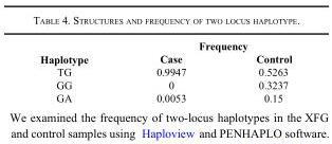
<table><tbody><tr><td rowspan="2">Haplotype</td><td colspan="2">Frequency</td></tr><tr><td>Case</td><td>Control</td></tr><tr><td>TG</td><td>0.9947</td><td>0.5263</td></tr><tr><td>GG</td><td>0</td><td>0.3237</td></tr><tr><td>GA</td><td>0.0053</td><td>0.15</td></tr></tbody></table>